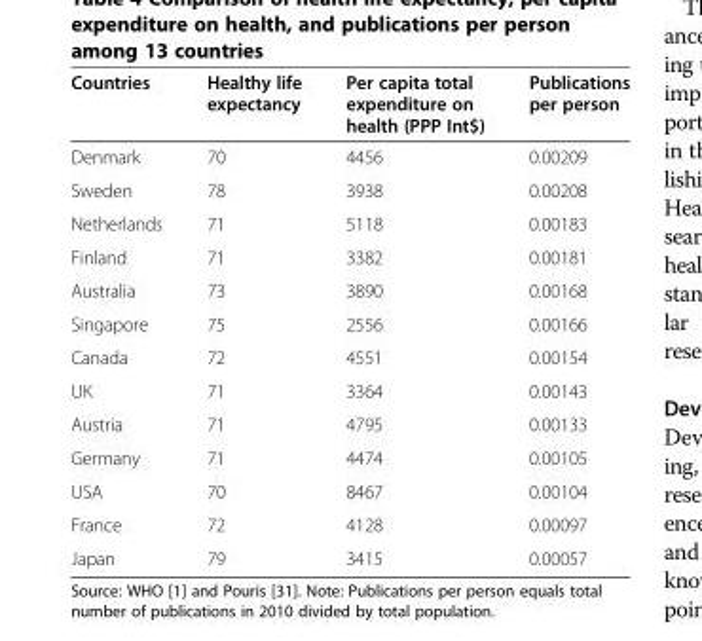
<table><thead><tr><td>Countries</td><td>Healthy life expectancy</td><td>Per capita total expenditure on health (PPP Int$)</td><td>Publications per person</td></tr></thead><tbody><tr><td>Denmark</td><td>70</td><td>4456</td><td>0.00209</td></tr><tr><td>Sweden</td><td>78</td><td>3938</td><td>0.00208</td></tr><tr><td>Netherlands</td><td>71</td><td>5118</td><td>0.00183</td></tr><tr><td>Finland</td><td>71</td><td>3382</td><td>0.00181</td></tr><tr><td>Australia</td><td>73</td><td>3890</td><td>0.00168</td></tr><tr><td>Singapore</td><td>75</td><td>2556</td><td>0.00166</td></tr><tr><td>Canada</td><td>72</td><td>4551</td><td>0.00154</td></tr><tr><td>UK</td><td>71</td><td>3364</td><td>0.00143</td></tr><tr><td>Austria</td><td>71</td><td>4795</td><td>0.00133</td></tr><tr><td>Germany</td><td>71</td><td>4474</td><td>0.00105</td></tr><tr><td>USA</td><td>70</td><td>8467</td><td>0.00104</td></tr><tr><td>France</td><td>72</td><td>4128</td><td>0.00097</td></tr><tr><td>Japan</td><td>79</td><td>3415</td><td>0.00057</td></tr></tbody></table>